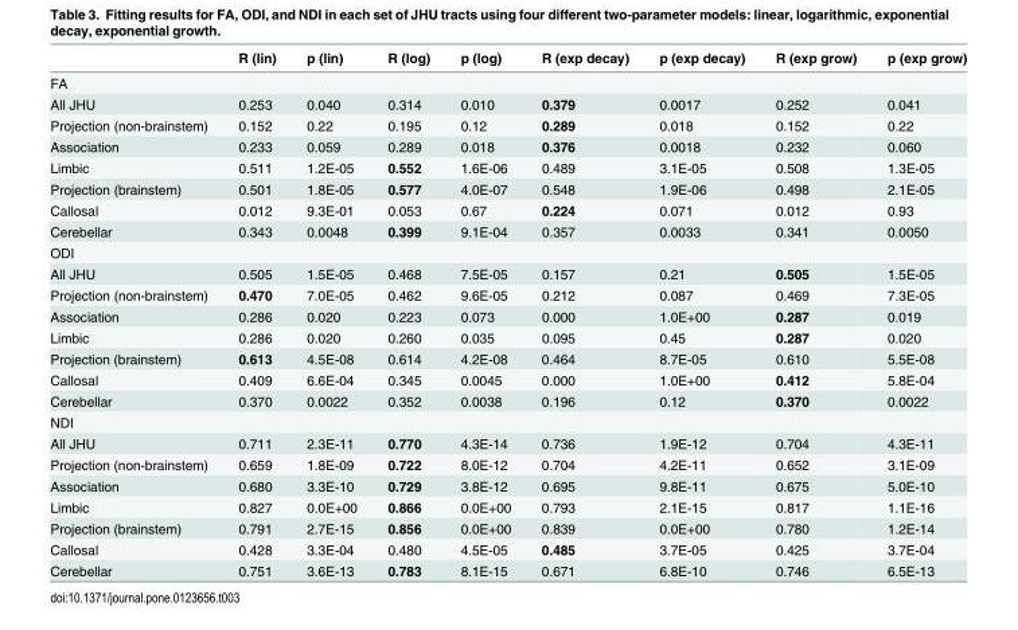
<table><thead><tr><td></td><td>R (lin)</td><td>p (lin)</td><td>R (log)</td><td>p (log)</td><td>R (exp decay)</td><td>p (exp decay)</td><td>R (exp grow)</td><td>p (exp grow)</td></tr></thead><tbody><tr><td colspan="9">FA</td></tr><tr><td>All JHU</td><td>0.253</td><td>0.040</td><td>0.314</td><td>0.010</td><td>0.379</td><td>0.0017</td><td>0.252</td><td>0.041</td></tr><tr><td>Projection (non-brainstem)</td><td>0.152</td><td>0.22</td><td>0.195</td><td>0.12</td><td>0.289</td><td>0.018</td><td>0.152</td><td>0.22</td></tr><tr><td>Association</td><td>0.233</td><td>0.059</td><td>0.289</td><td>0.018</td><td>0.376</td><td>0.0018</td><td>0.232</td><td>0.060</td></tr><tr><td>Limbic</td><td>0.511</td><td>1.2E-05</td><td>0.552</td><td>1.6E-06</td><td>0.489</td><td>3.1E-05</td><td>0.508</td><td>1.3E-05</td></tr><tr><td>Projection (brainstem)</td><td>0.501</td><td>1.8E-05</td><td>0.577</td><td>4.0E-07</td><td>0.548</td><td>1.9E-06</td><td>0.498</td><td>2.1E-05</td></tr><tr><td>Callosal</td><td>0.012</td><td>9.3E-01</td><td>0.053</td><td>0.67</td><td>0.224</td><td>0.071</td><td>0.012</td><td>0.93</td></tr><tr><td>Cerebellar</td><td>0.343</td><td>0.0048</td><td>0.399</td><td>9.1E-04</td><td>0.357</td><td>0.0033</td><td>0.341</td><td>0.0050</td></tr><tr><td colspan="9">ODI</td></tr><tr><td>All JHU</td><td>0.505</td><td>1.5E-05</td><td>0.468</td><td>7.5E-05</td><td>0.157</td><td>0.21</td><td>0.505</td><td>1.5E-05</td></tr><tr><td>Projection (non-brainstem)</td><td>0.470</td><td>7.0E-05</td><td>0.462</td><td>9.6E-05</td><td>0.212</td><td>0.087</td><td>0.469</td><td>7.3E-05</td></tr><tr><td>Association</td><td>0.286</td><td>0.020</td><td>0.223</td><td>0.073</td><td>0.000</td><td>1.0E+00</td><td>0.287</td><td>0.019</td></tr><tr><td>Limbic</td><td>0.286</td><td>0.020</td><td>0.260</td><td>0.035</td><td>0.095</td><td>0.45</td><td>0.287</td><td>0.020</td></tr><tr><td>Projection (brainstem)</td><td>0.613</td><td>4.5E-08</td><td>0.614</td><td>4.2E-08</td><td>0.464</td><td>8.7E-05</td><td>0.610</td><td>5.5E-08</td></tr><tr><td>Callosal</td><td>0.409</td><td>6.6E-04</td><td>0.345</td><td>0.0045</td><td>0.000</td><td>1.0E+00</td><td>0.412</td><td>5.8E-04</td></tr><tr><td>Cerebellar</td><td>0.370</td><td>0.0022</td><td>0.352</td><td>0.0038</td><td>0.196</td><td>0.12</td><td>0.370</td><td>0.0022</td></tr><tr><td colspan="9">NDI</td></tr><tr><td>All JHU</td><td>0.711</td><td>2.3E-11</td><td>0.770</td><td>4.3E-14</td><td>0.736</td><td>1.9E-12</td><td>0.704</td><td>4.3E-11</td></tr><tr><td>Projection (non-brainstem)</td><td>0.659</td><td>1.8E-09</td><td>0.722</td><td>8.0E-12</td><td>0.704</td><td>4.2E-11</td><td>0.652</td><td>3.1E-09</td></tr><tr><td>Association</td><td>0.680</td><td>3.3E-10</td><td>0.729</td><td>3.8E-12</td><td>0.695</td><td>9.8E-11</td><td>0.675</td><td>5.0E-10</td></tr><tr><td>Limbic</td><td>0.827</td><td>0.0E+00</td><td>0.866</td><td>0.0E+00</td><td>0.793</td><td>2.1E-15</td><td>0.817</td><td>1.1E-16</td></tr><tr><td>Projection (brainstem)</td><td>0.791</td><td>2.7E-15</td><td>0.856</td><td>0.0E+00</td><td>0.839</td><td>0.0E+00</td><td>0.780</td><td>1.2E-14</td></tr><tr><td>Callosal</td><td>0.428</td><td>3.3E-04</td><td>0.480</td><td>4.5E-05</td><td>0.485</td><td>3.7E-05</td><td>0.425</td><td>3.7E-04</td></tr><tr><td>Cerebellar</td><td>0.751</td><td>3.6E-13</td><td>0.783</td><td>8.1E-15</td><td>0.671</td><td>6.8E-10</td><td>0.746</td><td>6.5E-13</td></tr></tbody></table>